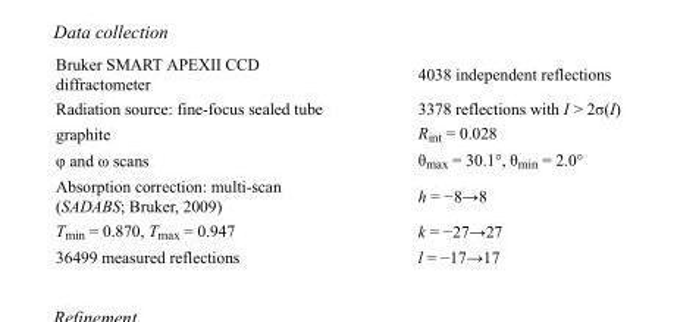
<table><tbody><tr><td>Bruker SMART APEXII CCD diffractometer</td><td>4038 independent reflections</td></tr><tr><td>Radiation source: fine-focus sealed tube</td><td>3378 reflections with I &gt; 2σ(I)</td></tr><tr><td>graphite</td><td>R<sub>int</sub> = 0.028</td></tr><tr><td>φ and ω scans</td><td>θ<sub>max</sub> = 30.1°, θ<sub>min</sub> = 2.0°</td></tr><tr><td>Absorption correction: multi-scan (SADABS; Bruker, 2009)</td><td>h = −8→8</td></tr><tr><td>T<sub>min</sub> = 0.870, T<sub>max</sub> = 0.947</td><td>k = −27→27</td></tr><tr><td>36499 measured reflections</td><td>l = −17→17</td></tr></tbody></table>